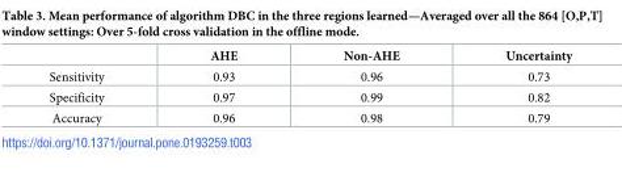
<table><thead><tr><td></td><td>AHE</td><td>Non-AHE</td><td>Uncertainty</td></tr></thead><tbody><tr><td>Sensitivity</td><td>0.93</td><td>0.96</td><td>0.73</td></tr><tr><td>Specificity</td><td>0.97</td><td>0.99</td><td>0.82</td></tr><tr><td>Accuracy</td><td>0.96</td><td>0.98</td><td>0.79</td></tr></tbody></table>